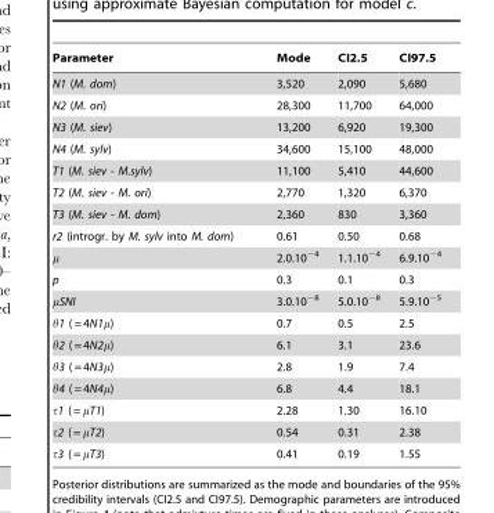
<table><thead><tr><td>Parameter</td><td>Mode</td><td>CI2.5</td><td>CI97.5</td></tr></thead><tbody><tr><td>N1 (M. dom)</td><td>3,520</td><td>2,090</td><td>5,680</td></tr><tr><td>N2 (M. ori)</td><td>28,300</td><td>11,700</td><td>64,000</td></tr><tr><td>N3 (M. siev)</td><td>13,200</td><td>6,920</td><td>19,300</td></tr><tr><td>N4 (M. sylv)</td><td>34,600</td><td>15,100</td><td>48,000</td></tr><tr><td>T1 (M. siev - M.sylv)</td><td>11,100</td><td>5,410</td><td>44,600</td></tr><tr><td>T2 (M. siev - M. ori)</td><td>2,770</td><td>1,320</td><td>6,370</td></tr><tr><td>T3 (M. siev - M. dom)</td><td>2,360</td><td>830</td><td>3,360</td></tr><tr><td>r2 (introgr. by M. sylv into M. dom)</td><td>0.61</td><td>0.50</td><td>0.68</td></tr><tr><td>μ</td><td>2.0.10<sup>−4</sup></td><td>1.1.10<sup>−4</sup></td><td>6.9.10<sup>−4</sup></td></tr><tr><td>p</td><td>0.3</td><td>0.1</td><td>0.3</td></tr><tr><td>μSNI</td><td>3.0.10<sup>−8</sup></td><td>5.0.10<sup>−8</sup></td><td>5.9.10<sup>−5</sup></td></tr><tr><td>θ1 ( = 4N1μ)</td><td>0.7</td><td>0.5</td><td>2.5</td></tr><tr><td>θ2 ( = 4N2μ)</td><td>6.1</td><td>3.1</td><td>23.6</td></tr><tr><td>θ3 ( = 4N3μ)</td><td>2.8</td><td>1.9</td><td>7.4</td></tr><tr><td>θ4 ( = 4N4μ)</td><td>6.8</td><td>4.4</td><td>18.1</td></tr><tr><td>τ1 ( = μT1)</td><td>2.28</td><td>1.30</td><td>16.10</td></tr><tr><td>τ2 ( = μT2)</td><td>0.54</td><td>0.31</td><td>2.38</td></tr><tr><td>τ3 ( = μT3)</td><td>0.41</td><td>0.19</td><td>1.55</td></tr></tbody></table>